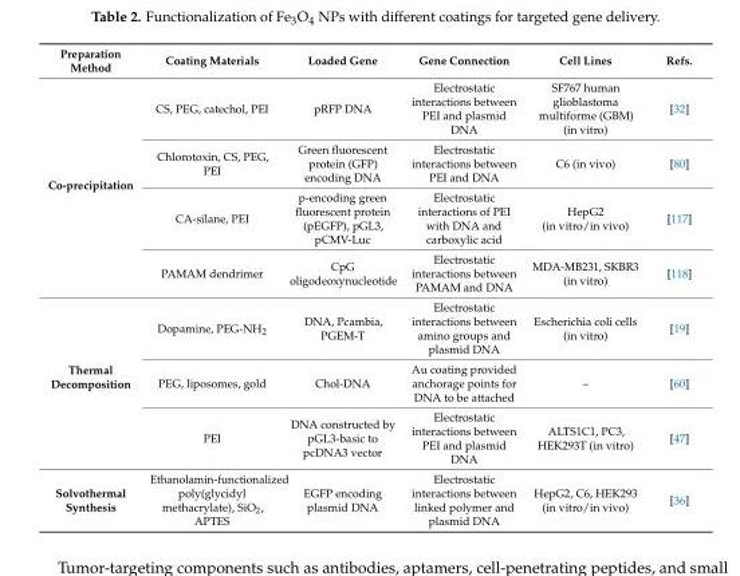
<table><thead><tr><td>Preparation Method</td><td>Coating Materials</td><td>Loaded Gene</td><td>Gene Connection</td><td>Cell Lines</td><td>Refs.</td></tr></thead><tbody><tr><td rowspan="4">Co-precipitation</td><td>CS, PEG, catechol, PEI</td><td>pRFP DNA</td><td>Electrostatic interactions between PEI and plasmid DNA</td><td>SF767 human glioblastoma multiforme (GBM) (in vitro)</td><td>[32]</td></tr><tr><td>Chlorotoxin, CS, PEG, PEI</td><td>Green fluorescent protein (GFP) encoding DNA</td><td>Electrostatic interactions between PEI and DNA</td><td>C6 (in vivo)</td><td>[80]</td></tr><tr><td>CA-silane, PEI</td><td>p-encoding green fluorescent protein (pEGFP), pGL3, pCMV-Luc</td><td>Electrostatic interactions of PEI with DNA and carboxylic acid</td><td>HepG2 (in vitro/in vivo)</td><td>[117]</td></tr><tr><td>PAMAM dendrimer</td><td>CpG oligodeoxynucleotide</td><td>Electrostatic interactions between PAMAM and DNA</td><td>MDA-MB231, SKBR3 (in vitro)</td><td>[118]</td></tr><tr><td rowspan="3">Thermal Decomposition</td><td>Dopamine, PEG-NH<sub>2</sub></td><td>DNA, Pcambia, PGEM-T</td><td>Electrostatic interactions between amino groups and plasmid DNA</td><td>Escherichia coli cells (in vitro)</td><td>[19]</td></tr><tr><td>PEG, liposomes, gold</td><td>Chol-DNA</td><td>Au coating provided anchorage points for DNA to be attached</td><td>–</td><td>[60]</td></tr><tr><td>PEI</td><td>DNA constructed by pGL3-basic to pcDNA3 vector</td><td>Electrostatic interactions between PEI and plasmid DNA</td><td>ALTS1C1, PC3, HEK293T (in vitro)</td><td>[47]</td></tr><tr><td>Solvothermal Synthesis</td><td>Ethanolamin-functionalized poly(glycidyl methacrylate), SiO<sub>2</sub>, APTES</td><td>EGFP encoding plasmid DNA</td><td>Electrostatic interactions between linked polymer and plasmid DNA</td><td>HepG2, C6, HEK293 (in vitro/in vivo)</td><td>[36]</td></tr></tbody></table>